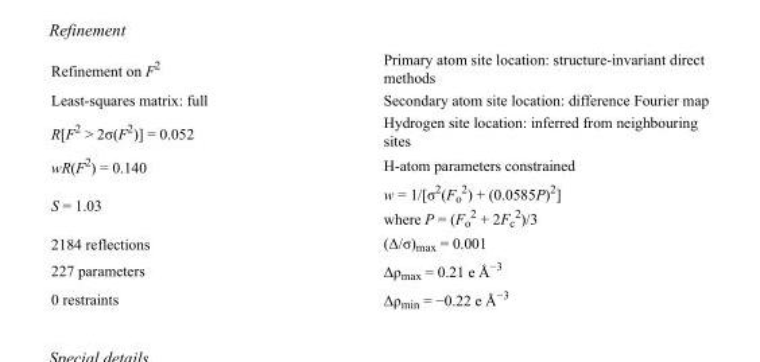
<table><tbody><tr><td>Refinement on F<sup>2</sup></td><td>Primary atom site location: structure-invariant direct methods</td></tr><tr><td>Least-squares matrix: full</td><td>Secondary atom site location: difference Fourier map</td></tr><tr><td>R[F<sup>2</sup> &gt; 2σ(F<sup>2</sup>)] = 0.052</td><td>Hydrogen site location: inferred from neighbouring sites</td></tr><tr><td>wR(F<sup>2</sup>) = 0.140</td><td>H-atom parameters constrained</td></tr><tr><td>S = 1.03</td><td>w = 1/[σ<sup>2</sup>(F<sub>o</sub> <sup>2</sup>) + (0.0585P)<sup>2</sup>] where P = (F<sub>o</sub> <sup>2</sup> + 2F<sub>c</sub> <sup>2</sup>)/3</td></tr><tr><td>2184 reflections</td><td>(Δ/σ)<sub>max</sub> = 0.001</td></tr><tr><td>227 parameters</td><td>Δρ<sub>max</sub> = 0.21 e Å<sup>−3</sup></td></tr><tr><td>0 restraints</td><td>Δρ<sub>min</sub> = −0.22 e Å<sup>−3</sup></td></tr></tbody></table>